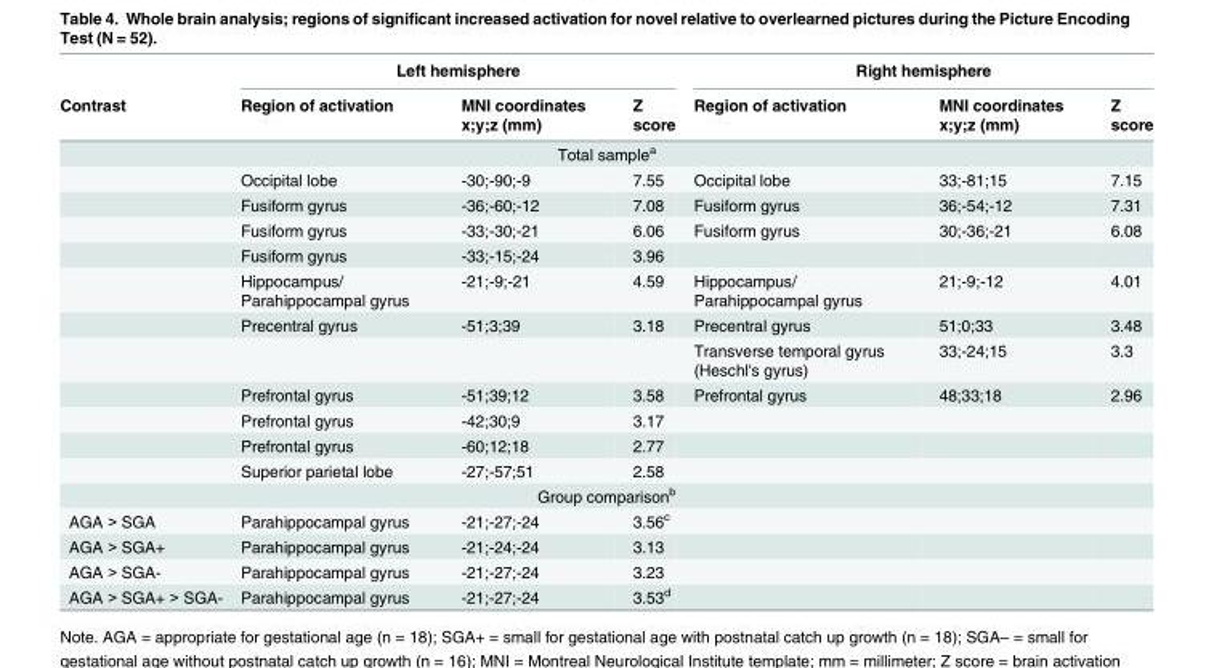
<table><thead><tr><td rowspan="2">Contrast</td><td colspan="3">Left hemisphere</td><td colspan="3">Right hemisphere</td></tr><tr><td>Region of activation</td><td>MNI coordinates x;y;z (mm)</td><td>Z score</td><td>Region of activation</td><td>MNI coordinates x;y;z (mm)</td><td>Z score</td></tr></thead><tbody><tr><td colspan="7">Total sample<sup>a</sup></td></tr><tr><td></td><td>Occipital lobe</td><td>-30;-90;-9</td><td>7.55</td><td>Occipital lobe</td><td>33;-81;15</td><td>7.15</td></tr><tr><td></td><td>Fusiform gyrus</td><td>-36;-60;-12</td><td>7.08</td><td>Fusiform gyrus</td><td>36;-54;-12</td><td>7.31</td></tr><tr><td></td><td>Fusiform gyrus</td><td>-33;-30;-21</td><td>6.06</td><td>Fusiform gyrus</td><td>30;-36;-21</td><td>6.08</td></tr><tr><td></td><td>Fusiform gyrus</td><td>-33;-15;-24</td><td>3.96</td><td></td><td></td><td></td></tr><tr><td></td><td>Hippocampus/ Parahippocampal gyrus</td><td>-21;-9;-21</td><td>4.59</td><td>Hippocampus/ Parahippocampal gyrus</td><td>21;-9;-12</td><td>4.01</td></tr><tr><td></td><td>Precentral gyrus</td><td>-51;3;39</td><td>3.18</td><td>Precentral gyrus</td><td>51;0;33</td><td>3.48</td></tr><tr><td></td><td></td><td></td><td></td><td>Transverse temporal gyrus (Heschl&#x27;s gyrus)</td><td>33;-24;15</td><td>3.3</td></tr><tr><td></td><td>Prefrontal gyrus</td><td>-51;39;12</td><td>3.58</td><td>Prefrontal gyrus</td><td>48;33;18</td><td>2.96</td></tr><tr><td></td><td>Prefrontal gyrus</td><td>-42;30;9</td><td>3.17</td><td></td><td></td><td></td></tr><tr><td></td><td>Prefrontal gyrus</td><td>-60;12;18</td><td>2.77</td><td></td><td></td><td></td></tr><tr><td></td><td>Superior parietal lobe</td><td>-27;-57;51</td><td>2.58</td><td></td><td></td><td></td></tr><tr><td colspan="7">Group comparison<sup>b</sup></td></tr><tr><td>AGA &gt; SGA</td><td>Parahippocampal gyrus</td><td>-21;-27;-24</td><td>3.56<sup>c</sup></td><td></td><td></td><td></td></tr><tr><td>AGA &gt; SGA+</td><td>Parahippocampal gyrus</td><td>-21;-24;-24</td><td>3.13</td><td></td><td></td><td></td></tr><tr><td>AGA &gt; SGA-</td><td>Parahippocampal gyrus</td><td>-21;-27;-24</td><td>3.23</td><td></td><td></td><td></td></tr><tr><td>AGA &gt; SGA+ &gt; SGA-</td><td>Parahippocampal gyrus</td><td>-21;-27;-24</td><td>3.53<sup>d</sup></td><td></td><td></td><td></td></tr></tbody></table>